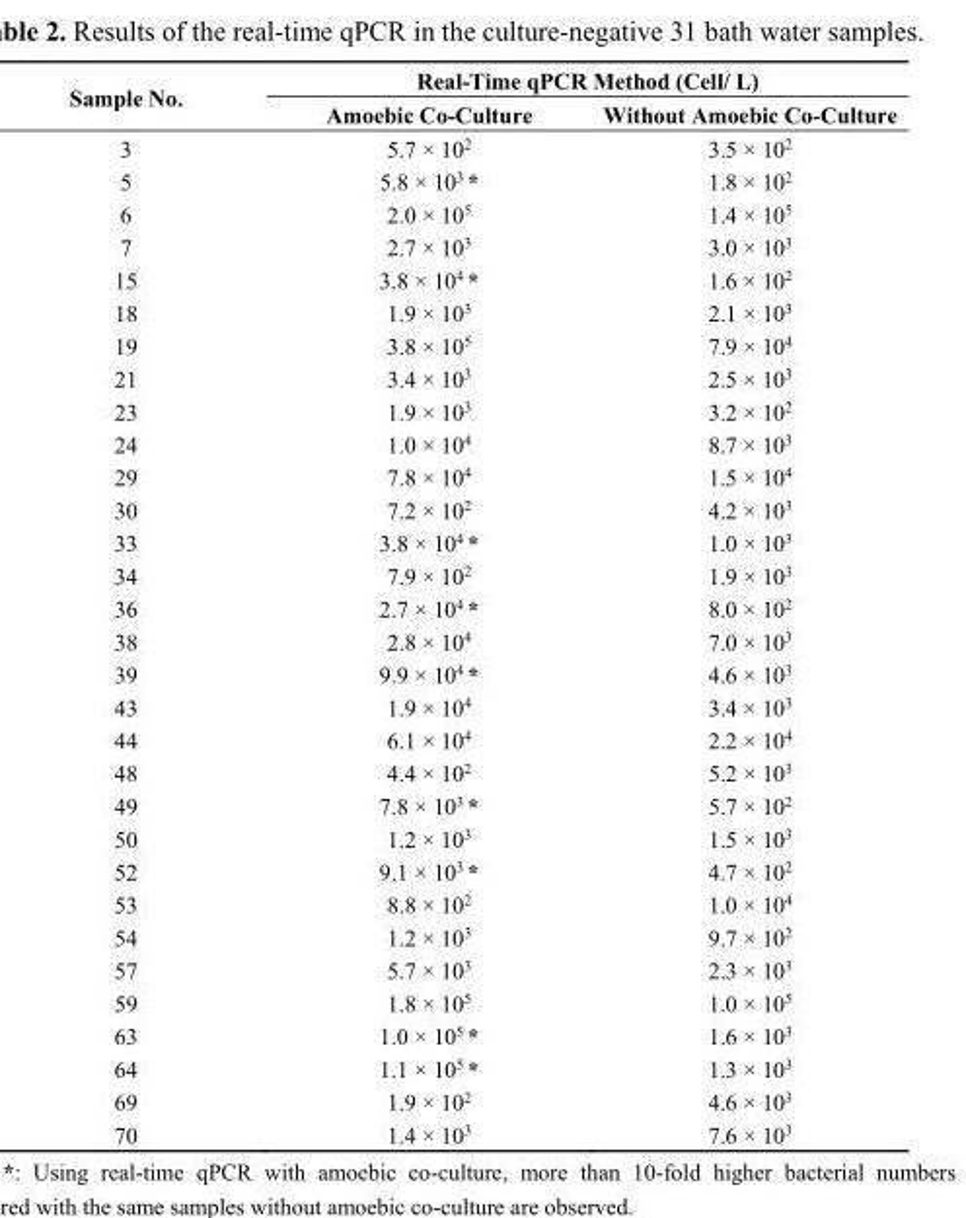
<table><thead><tr><td rowspan="2">Sample No.</td><td colspan="2">Real-Time qPCR Method (Cell/ L)</td></tr><tr><td>Amoebic Co-Culture</td><td>Without Amoebic Co-Culture</td></tr></thead><tbody><tr><td>3</td><td>5.7 × 10<sup>2</sup></td><td>3.5 × 10<sup>2</sup></td></tr><tr><td>5</td><td>5.8 × 10<sup>3</sup> *</td><td>1.8 × 10<sup>2</sup></td></tr><tr><td>6</td><td>2.0 × 10<sup>5</sup></td><td>1.4 × 10<sup>5</sup></td></tr><tr><td>7</td><td>2.7 × 10<sup>3</sup></td><td>3.0 × 10<sup>3</sup></td></tr><tr><td>15</td><td>3.8 × 10<sup>4</sup> *</td><td>1.6 × 10<sup>2</sup></td></tr><tr><td>18</td><td>1.9 × 10<sup>3</sup></td><td>2.1 × 10<sup>3</sup></td></tr><tr><td>19</td><td>3.8 × 10<sup>5</sup></td><td>7.9 × 10<sup>4</sup></td></tr><tr><td>21</td><td>3.4 × 10<sup>3</sup></td><td>2.5 × 10<sup>3</sup></td></tr><tr><td>23</td><td>1.9 × 10<sup>3</sup></td><td>3.2 × 10<sup>2</sup></td></tr><tr><td>24</td><td>1.0 × 10<sup>4</sup></td><td>8.7 × 10<sup>3</sup></td></tr><tr><td>29</td><td>7.8 × 10<sup>4</sup></td><td>1.5 × 10<sup>4</sup></td></tr><tr><td>30</td><td>7.2 × 10<sup>2</sup></td><td>4.2 × 10<sup>3</sup></td></tr><tr><td>33</td><td>3.8 × 10<sup>4</sup> *</td><td>1.0 × 10<sup>3</sup></td></tr><tr><td>34</td><td>7.9 × 10<sup>2</sup></td><td>1.9 × 10<sup>3</sup></td></tr><tr><td>36</td><td>2.7 × 10<sup>4</sup> *</td><td>8.0 × 10<sup>2</sup></td></tr><tr><td>38</td><td>2.8 × 10<sup>4</sup></td><td>7.0 × 10<sup>3</sup></td></tr><tr><td>39</td><td>9.9 × 10<sup>4</sup> *</td><td>4.6 × 10<sup>3</sup></td></tr><tr><td>43</td><td>1.9 × 10<sup>4</sup></td><td>3.4 × 10<sup>3</sup></td></tr><tr><td>44</td><td>6.1 × 10<sup>4</sup></td><td>2.2 × 10<sup>4</sup></td></tr><tr><td>48</td><td>4.4 × 10<sup>2</sup></td><td>5.2 × 10<sup>3</sup></td></tr><tr><td>49</td><td>7.8 × 10<sup>3</sup> *</td><td>5.7 × 10<sup>2</sup></td></tr><tr><td>50</td><td>1.2 × 10<sup>3</sup></td><td>1.5 × 10<sup>3</sup></td></tr><tr><td>52</td><td>9.1 × 10<sup>3</sup> *</td><td>4.7 × 10<sup>2</sup></td></tr><tr><td>53</td><td>8.8 × 10<sup>2</sup></td><td>1.0 × 10<sup>4</sup></td></tr><tr><td>54</td><td>1.2 × 10<sup>3</sup></td><td>9.7 × 10<sup>2</sup></td></tr><tr><td>57</td><td>5.7 × 10<sup>3</sup></td><td>2.3 × 10<sup>3</sup></td></tr><tr><td>59</td><td>1.8 × 10<sup>5</sup></td><td>1.0 × 10<sup>5</sup></td></tr><tr><td>63</td><td>1.0 × 10<sup>5</sup> *</td><td>1.6 × 10<sup>3</sup></td></tr><tr><td>64</td><td>1.1 × 10<sup>5</sup> *</td><td>1.3 × 10<sup>3</sup></td></tr><tr><td>69</td><td>1.9 × 10<sup>2</sup></td><td>4.6 × 10<sup>3</sup></td></tr><tr><td>70</td><td>1.4 × 10<sup>3</sup></td><td>7.6 × 10<sup>3</sup></td></tr></tbody></table>